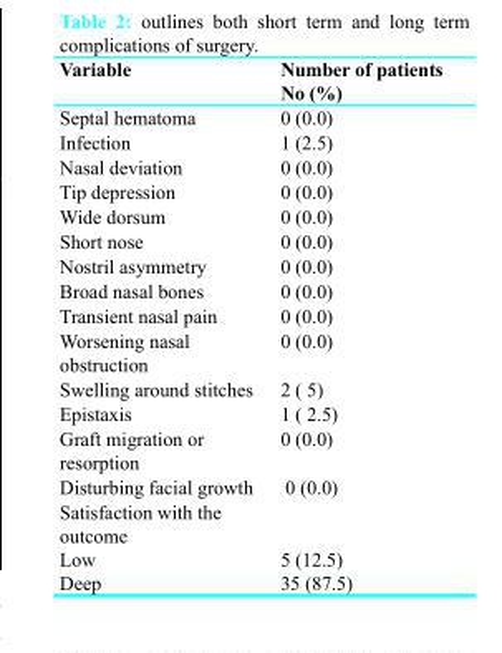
<table><thead><tr><td>Variable</td><td>Number of patients No (%)</td></tr></thead><tbody><tr><td>Septal hematoma</td><td>0 (0.0)</td></tr><tr><td>Infection</td><td>1 (2.5)</td></tr><tr><td>Nasal deviation</td><td>0 (0.0)</td></tr><tr><td>Tip depression</td><td>0 (0.0)</td></tr><tr><td>Wide dorsum</td><td>0 (0.0)</td></tr><tr><td>Short nose</td><td>0 (0.0)</td></tr><tr><td>Nostril asymmetry</td><td>0 (0.0)</td></tr><tr><td>Broad nasal bones</td><td>0 (0.0)</td></tr><tr><td>Transient nasal pain</td><td>0 (0.0)</td></tr><tr><td>Worsening nasal obstruction</td><td>0 (0.0)</td></tr><tr><td>Swelling around stitches</td><td>2 ( 5)</td></tr><tr><td>Epistaxis</td><td>1 ( 2.5)</td></tr><tr><td>Graft migration or resorption</td><td>0 (0.0)</td></tr><tr><td>Disturbing facial growth</td><td>0 (0.0)</td></tr><tr><td colspan="2">Satisfaction with the outcome</td></tr><tr><td>Low Deep</td><td>5 (12.5) 35 (87.5)</td></tr></tbody></table>